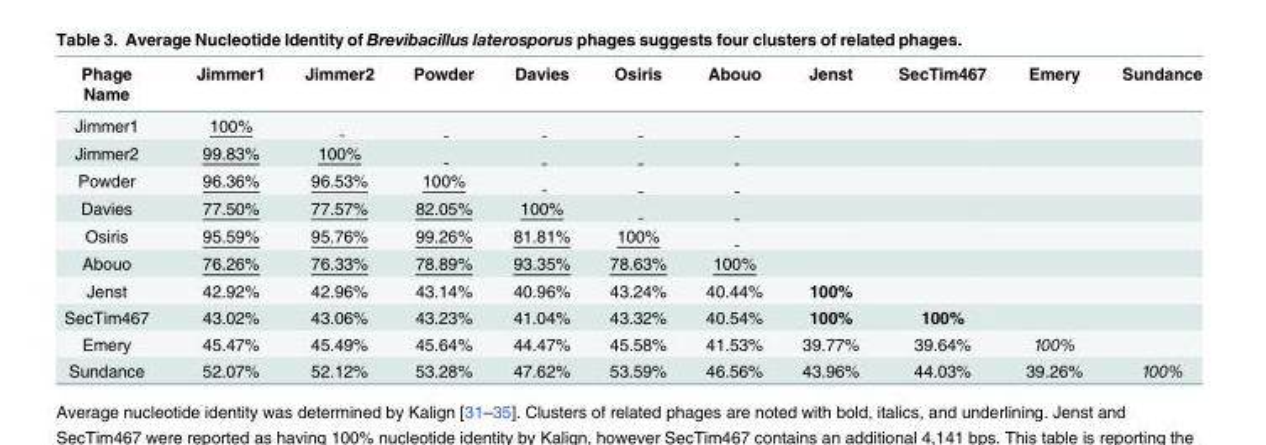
<table><thead><tr><td>Phage Name</td><td>Jimmer1</td><td>Jimmer2</td><td>Powder</td><td>Davies</td><td>Osiris</td><td>Abouo</td><td>Jenst</td><td>SecTim467</td><td>Emery</td><td>Sundance</td></tr></thead><tbody><tr><td>Jimmer1</td><td>100%</td><td></td><td></td><td></td><td></td><td></td><td></td><td></td><td></td><td></td></tr><tr><td>Jimmer2</td><td>99.83%</td><td>100%</td><td></td><td></td><td></td><td></td><td></td><td></td><td></td><td></td></tr><tr><td>Powder</td><td>96.36%</td><td>96.53%</td><td>100%</td><td></td><td></td><td></td><td></td><td></td><td></td><td></td></tr><tr><td>Davies</td><td>77.50%</td><td>77.57%</td><td>82.05%</td><td>100%</td><td></td><td></td><td></td><td></td><td></td><td></td></tr><tr><td>Osiris</td><td>95.59%</td><td>95.76%</td><td>99.26%</td><td>81.81%</td><td>100%</td><td></td><td></td><td></td><td></td><td></td></tr><tr><td>Abouo</td><td>76.26%</td><td>76.33%</td><td>78.89%</td><td>93.35%</td><td>78.63%</td><td>100%</td><td></td><td></td><td></td><td></td></tr><tr><td>Jenst</td><td>42.92%</td><td>42.96%</td><td>43.14%</td><td>40.96%</td><td>43.24%</td><td>40.44%</td><td>100%</td><td></td><td></td><td></td></tr><tr><td>SecTim467</td><td>43.02%</td><td>43.06%</td><td>43.23%</td><td>41.04%</td><td>43.32%</td><td>40.54%</td><td>100%</td><td>100%</td><td></td><td></td></tr><tr><td>Emery</td><td>45.47%</td><td>45.49%</td><td>45.64%</td><td>44.47%</td><td>45.58%</td><td>41.53%</td><td>39.77%</td><td>39.64%</td><td>100%</td><td></td></tr><tr><td>Sundance</td><td>52.07%</td><td>52.12%</td><td>53.28%</td><td>47.62%</td><td>53.59%</td><td>46.56%</td><td>43.96%</td><td>44.03%</td><td>39.26%</td><td>100%</td></tr></tbody></table>